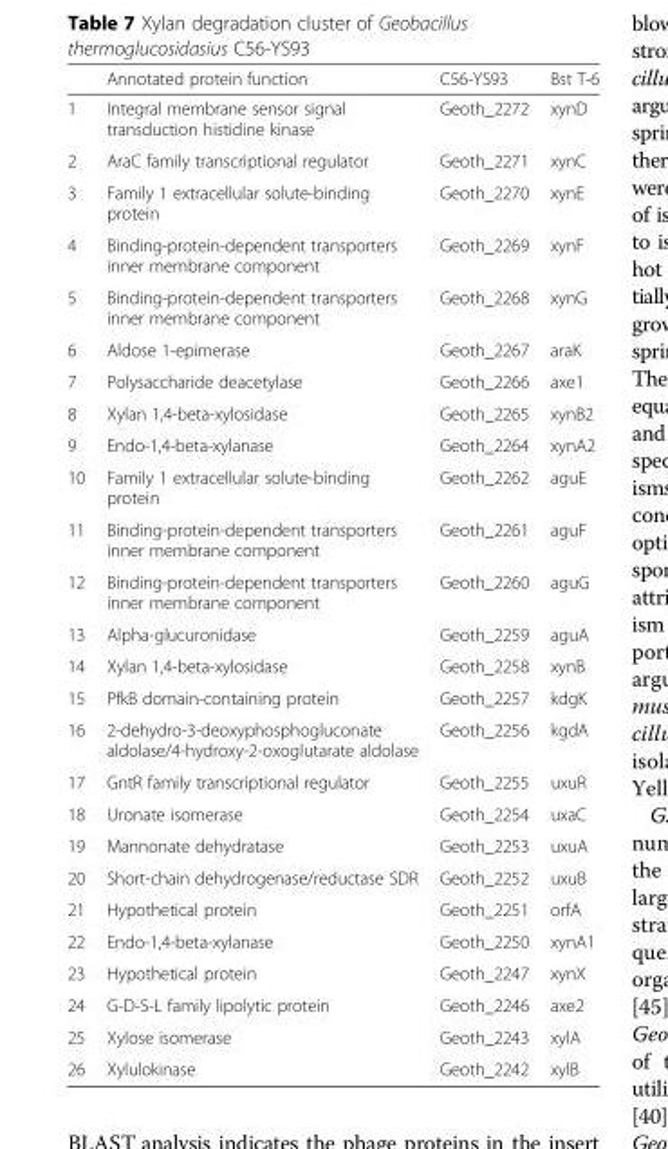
<table><thead><tr><td></td><td>Annotated protein function</td><td>C56-YS93</td><td>Bst T-6</td></tr></thead><tbody><tr><td>1</td><td>Integral membrane sensor signal transduction histidine kinase</td><td>Geoth_2272</td><td>xynD</td></tr><tr><td>2</td><td>AraC family transcriptional regulator</td><td>Geoth_2271</td><td>xynC</td></tr><tr><td>3</td><td>Family 1 extracellular solute-binding protein</td><td>Geoth_2270</td><td>xynE</td></tr><tr><td>4</td><td>Binding-protein-dependent transporters inner membrane component</td><td>Geoth_2269</td><td>xynF</td></tr><tr><td>5</td><td>Binding-protein-dependent transporters inner membrane component</td><td>Geoth_2268</td><td>xynG</td></tr><tr><td>6</td><td>Aldose 1-epimerase</td><td>Geoth_2267</td><td>araK</td></tr><tr><td>7</td><td>Polysaccharide deacetylase</td><td>Geoth_2266</td><td>axe1</td></tr><tr><td>8</td><td>Xylan 1,4-beta-xylosidase</td><td>Geoth_2265</td><td>xynB2</td></tr><tr><td>9</td><td>Endo-1,4-beta-xylanase</td><td>Geoth_2264</td><td>xynA2</td></tr><tr><td>10</td><td>Family 1 extracellular solute-binding protein</td><td>Geoth_2262</td><td>aguE</td></tr><tr><td>11</td><td>Binding-protein-dependent transporters inner membrane component</td><td>Geoth_2261</td><td>aguF</td></tr><tr><td>12</td><td>Binding-protein-dependent transporters inner membrane component</td><td>Geoth_2260</td><td>aguG</td></tr><tr><td>13</td><td>Alpha-glucuronidase</td><td>Geoth_2259</td><td>aguA</td></tr><tr><td>14</td><td>Xylan 1,4-beta-xylosidase</td><td>Geoth_2258</td><td>xynB</td></tr><tr><td>15</td><td>PfkB domain-containing protein</td><td>Geoth_2257</td><td>kdgK</td></tr><tr><td>16</td><td>2-dehydro-3-deoxyphosphogluconate aldolase/4-hydroxy-2-oxoglutarate aldolase</td><td>Geoth_2256</td><td>kgdA</td></tr><tr><td>17</td><td>GntR family transcriptional regulator</td><td>Geoth_2255</td><td>uxuR</td></tr><tr><td>18</td><td>Uronate isomerase</td><td>Geoth_2254</td><td>uxaC</td></tr><tr><td>19</td><td>Mannonate dehydratase</td><td>Geoth_2253</td><td>uxuA</td></tr><tr><td>20</td><td>Short-chain dehydrogenase/reductase SDR</td><td>Geoth_2252</td><td>uxuB</td></tr><tr><td>21</td><td>Hypothetical protein</td><td>Geoth_2251</td><td>orfA</td></tr><tr><td>22</td><td>Endo-1,4-beta-xylanase</td><td>Geoth_2250</td><td>xynA1</td></tr><tr><td>23</td><td>Hypothetical protein</td><td>Geoth_2247</td><td>xynX</td></tr><tr><td>24</td><td>G-D-S-L family lipolytic protein</td><td>Geoth_2246</td><td>axe2</td></tr><tr><td>25</td><td>Xylose isomerase</td><td>Geoth_2243</td><td>xylA</td></tr><tr><td>26</td><td>Xylulokinase</td><td>Geoth_2242</td><td>xylB</td></tr></tbody></table>